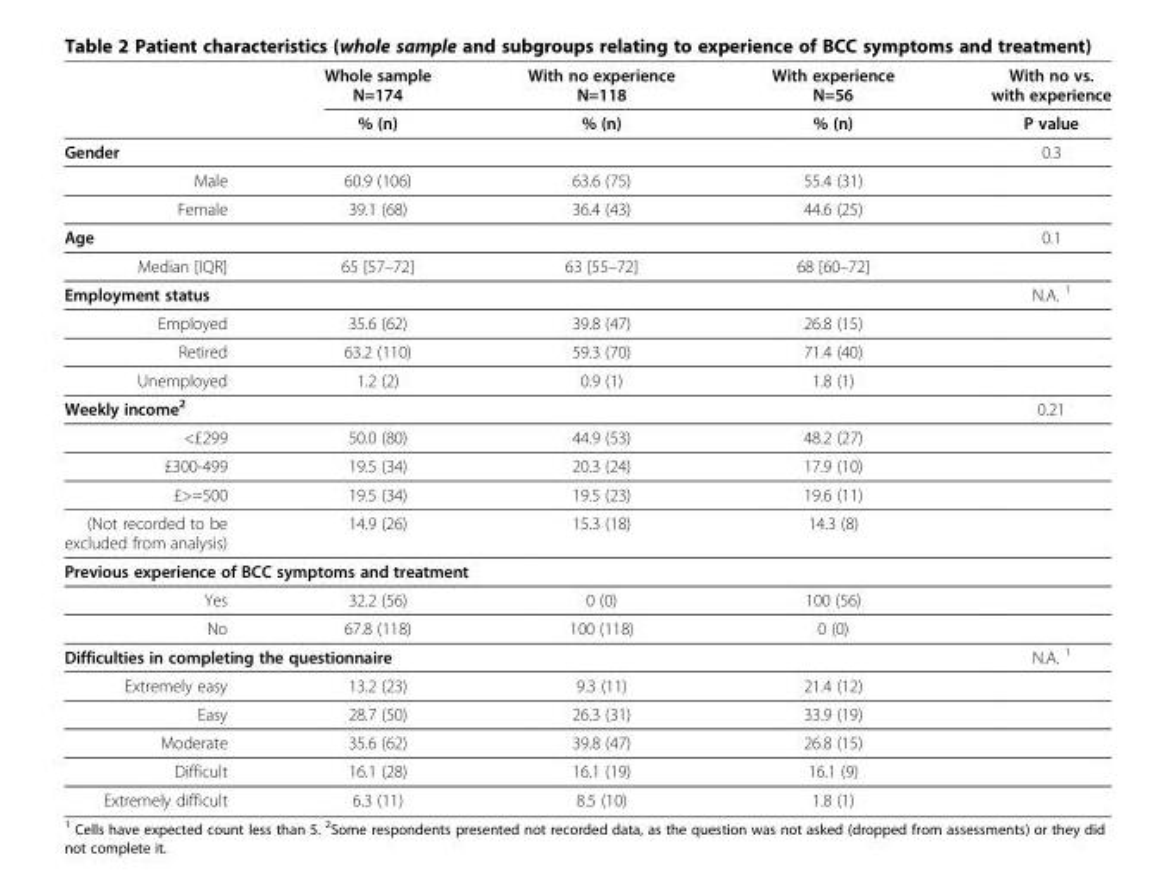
<table><thead><tr><td rowspan="2"></td><td rowspan="2">Whole sample N=174 % (n)</td><td rowspan="2">With no experience N=118 % (n)</td><td rowspan="2">With experience N=56 % (n)</td><td rowspan="2">With no vs. with experience P value</td></tr><tr></tr></thead><tbody><tr><td colspan="4">Gender</td><td>0.3</td></tr><tr><td>Male</td><td>60.9 (106)</td><td>63.6 (75)</td><td>55.4 (31)</td><td></td></tr><tr><td>Female</td><td>39.1 (68)</td><td>36.4 (43)</td><td>44.6 (25)</td><td></td></tr><tr><td colspan="4">Age</td><td>0.1</td></tr><tr><td>Median [IQR]</td><td>65 [57–72]</td><td>63 [55–72]</td><td>68 [60–72]</td><td></td></tr><tr><td colspan="4">Employment status</td><td>N.A. <sup>1</sup></td></tr><tr><td>Employed</td><td>35.6 (62)</td><td>39.8 (47)</td><td>26.8 (15)</td><td></td></tr><tr><td>Retired</td><td>63.2 (110)</td><td>59.3 (70)</td><td>71.4 (40)</td><td></td></tr><tr><td>Unemployed</td><td>1.2 (2)</td><td>0.9 (1)</td><td>1.8 (1)</td><td></td></tr><tr><td colspan="4">Weekly income<sup>2</sup></td><td>0.21</td></tr><tr><td>&lt;£299</td><td>50.0 (80)</td><td>44.9 (53)</td><td>48.2 (27)</td><td></td></tr><tr><td>£300-499</td><td>19.5 (34)</td><td>20.3 (24)</td><td>17.9 (10)</td><td></td></tr><tr><td>£&gt;=500</td><td>19.5 (34)</td><td>19.5 (23)</td><td>19.6 (11)</td><td></td></tr><tr><td>(Not recorded to be excluded from analysis)</td><td>14.9 (26)</td><td>15.3 (18)</td><td>14.3 (8)</td><td></td></tr><tr><td colspan="5">Previous experience of BCC symptoms and treatment</td></tr><tr><td>Yes</td><td>32.2 (56)</td><td>0 (0)</td><td>100 (56)</td><td></td></tr><tr><td>No</td><td>67.8 (118)</td><td>100 (118)</td><td>0 (0)</td><td></td></tr><tr><td colspan="4">Difficulties in completing the questionnaire</td><td>N.A. <sup>1</sup></td></tr><tr><td>Extremely easy</td><td>13.2 (23)</td><td>9.3 (11)</td><td>21.4 (12)</td><td></td></tr><tr><td>Easy</td><td>28.7 (50)</td><td>26.3 (31)</td><td>33.9 (19)</td><td></td></tr><tr><td>Moderate</td><td>35.6 (62)</td><td>39.8 (47)</td><td>26.8 (15)</td><td></td></tr><tr><td>Difficult</td><td>16.1 (28)</td><td>16.1 (19)</td><td>16.1 (9)</td><td></td></tr><tr><td>Extremely difficult</td><td>6.3 (11)</td><td>8.5 (10)</td><td>1.8 (1)</td><td></td></tr></tbody></table>